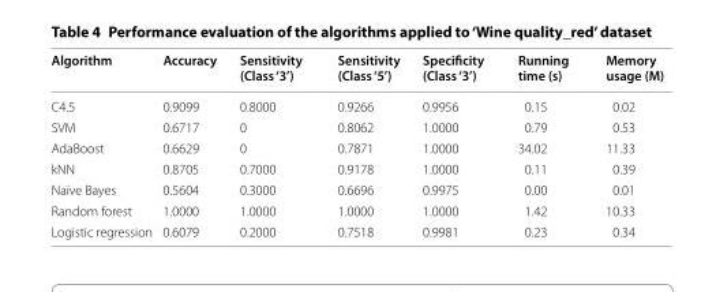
<table><thead><tr><td>Algorithm</td><td>Accuracy</td><td>Sensitivity (Class ‘3’)</td><td>Sensitivity (Class ‘5’)</td><td>Specificity (Class ‘3’)</td><td>Running time (s)</td><td>Memory usage (M)</td></tr></thead><tbody><tr><td>C4.5</td><td>0.9099</td><td>0.8000</td><td>0.9266</td><td>0.9956</td><td>0.15</td><td>0.02</td></tr><tr><td>SVM</td><td>0.6717</td><td>0</td><td>0.8062</td><td>1.0000</td><td>0.79</td><td>0.53</td></tr><tr><td>AdaBoost</td><td>0.6629</td><td>0</td><td>0.7871</td><td>1.0000</td><td>34.02</td><td>11.33</td></tr><tr><td>kNN</td><td>0.8705</td><td>0.7000</td><td>0.9178</td><td>1.0000</td><td>0.11</td><td>0.39</td></tr><tr><td>Naïve Bayes</td><td>0.5604</td><td>0.3000</td><td>0.6696</td><td>0.9975</td><td>0.00</td><td>0.01</td></tr><tr><td>Random forest</td><td>1.0000</td><td>1.0000</td><td>1.0000</td><td>1.0000</td><td>1.42</td><td>10.33</td></tr><tr><td>Logistic regression</td><td>0.6079</td><td>0.2000</td><td>0.7518</td><td>0.9981</td><td>0.23</td><td>0.34</td></tr></tbody></table>